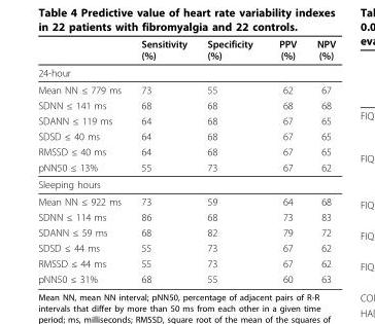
<table><thead><tr><td></td><td>Sensitivity (%)</td><td>Specificity (%)</td><td>PPV (%)</td><td>NPV (%)</td></tr></thead><tbody><tr><td colspan="5">24-hour</td></tr><tr><td>Mean NN ≤ 779 ms</td><td>73</td><td>55</td><td>62</td><td>67</td></tr><tr><td>SDNN ≤ 141 ms</td><td>68</td><td>68</td><td>68</td><td>68</td></tr><tr><td>SDANN ≤ 119 ms</td><td>64</td><td>68</td><td>67</td><td>65</td></tr><tr><td>SDSD ≤ 40 ms</td><td>64</td><td>68</td><td>67</td><td>65</td></tr><tr><td>RMSSD ≤ 40 ms</td><td>64</td><td>68</td><td>67</td><td>65</td></tr><tr><td>pNN50 ≤ 13%</td><td>55</td><td>73</td><td>67</td><td>62</td></tr><tr><td colspan="5">Sleeping hours</td></tr><tr><td>Mean NN ≤ 922 ms</td><td>73</td><td>59</td><td>64</td><td>68</td></tr><tr><td>SDNN ≤ 114 ms</td><td>86</td><td>68</td><td>73</td><td>83</td></tr><tr><td>SDANN ≤ 59 ms</td><td>68</td><td>82</td><td>79</td><td>72</td></tr><tr><td>SDSD ≤ 44 ms</td><td>55</td><td>73</td><td>67</td><td>62</td></tr><tr><td>RMSSD ≤ 44 ms</td><td>55</td><td>73</td><td>67</td><td>62</td></tr><tr><td>pNN50 ≤ 31%</td><td>68</td><td>55</td><td>60</td><td>63</td></tr></tbody></table>